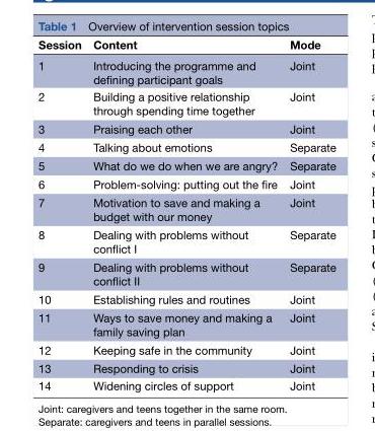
<table><thead><tr><td>Session</td><td>Content</td><td>Mode</td></tr></thead><tbody><tr><td>1</td><td>Introducing the programme and defining participant goals</td><td>Joint</td></tr><tr><td>2</td><td>Building a positive relationship through spending time together</td><td>Joint</td></tr><tr><td>3</td><td>Praising each other</td><td>Joint</td></tr><tr><td>4</td><td>Talking about emotions</td><td>Separate</td></tr><tr><td>5</td><td>What do we do when we are angry?</td><td>Separate</td></tr><tr><td>6</td><td>Problem-solving: putting out the fire</td><td>Joint</td></tr><tr><td>7</td><td>Motivation to save and making a budget with our money</td><td>Joint</td></tr><tr><td>8</td><td>Dealing with problems without conflict I</td><td>Separate</td></tr><tr><td>9</td><td>Dealing with problems without conflict II</td><td>Separate</td></tr><tr><td>10</td><td>Establishing rules and routines</td><td>Joint</td></tr><tr><td>11</td><td>Ways to save money and making a family saving plan</td><td>Joint</td></tr><tr><td>12</td><td>Keeping safe in the community</td><td>Joint</td></tr><tr><td>13</td><td>Responding to crisis</td><td>Joint</td></tr><tr><td>14</td><td>Widening circles of support</td><td>Joint</td></tr></tbody></table>